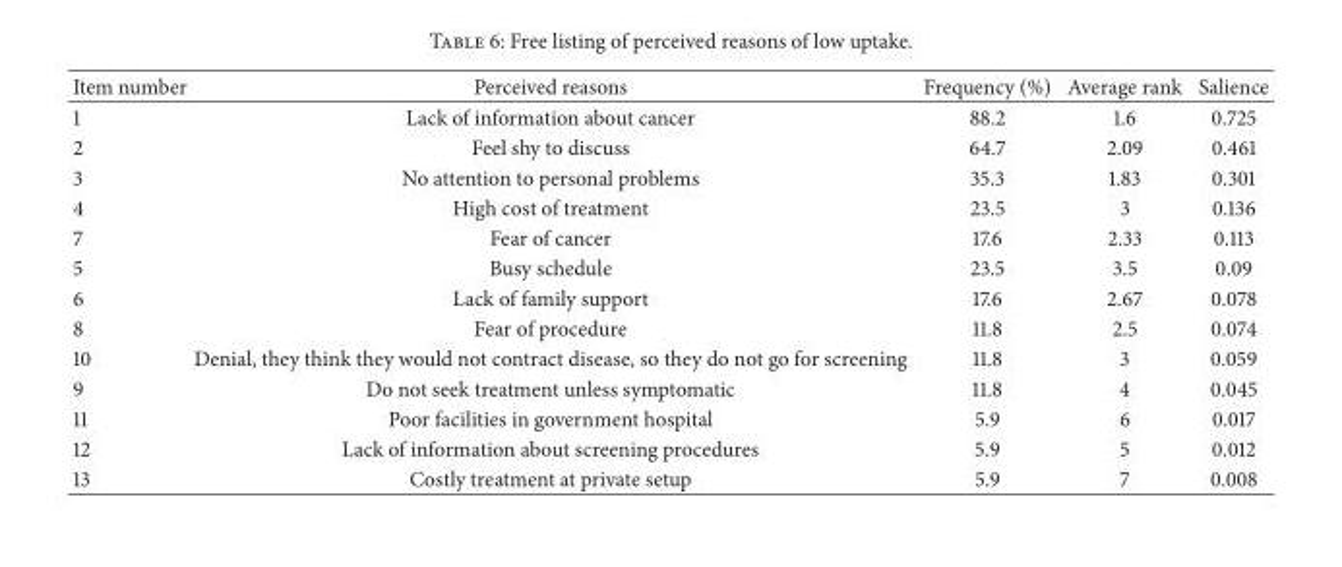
<table><thead><tr><td>Item number</td><td>Perceived reasons</td><td>Frequency (%)</td><td>Average rank</td><td>Salience</td></tr></thead><tbody><tr><td>1</td><td>Lack of information about cancer</td><td>88.2</td><td>1.6</td><td>0.725</td></tr><tr><td>2</td><td>Feel shy to discuss</td><td>64.7</td><td>2.09</td><td>0.461</td></tr><tr><td>3</td><td>No attention to personal problems</td><td>35.3</td><td>1.83</td><td>0.301</td></tr><tr><td>4</td><td>High cost of treatment</td><td>23.5</td><td>3</td><td>0.136</td></tr><tr><td>7</td><td>Fear of cancer</td><td>17.6</td><td>2.33</td><td>0.113</td></tr><tr><td>5</td><td>Busy schedule</td><td>23.5</td><td>3.5</td><td>0.09</td></tr><tr><td>6</td><td>Lack of family support</td><td>17.6</td><td>2.67</td><td>0.078</td></tr><tr><td>8</td><td>Fear of procedure</td><td>11.8</td><td>2.5</td><td>0.074</td></tr><tr><td>10</td><td>Denial, they think they would not contract disease, so they do not go for screening</td><td>11.8</td><td>3</td><td>0.059</td></tr><tr><td>9</td><td>Do not seek treatment unless symptomatic</td><td>11.8</td><td>4</td><td>0.045</td></tr><tr><td>11</td><td>Poor facilities in government hospital</td><td>5.9</td><td>6</td><td>0.017</td></tr><tr><td>12</td><td>Lack of information about screening procedures</td><td>5.9</td><td>5</td><td>0.012</td></tr><tr><td>13</td><td>Costly treatment at private setup</td><td>5.9</td><td>7</td><td>0.008</td></tr></tbody></table>